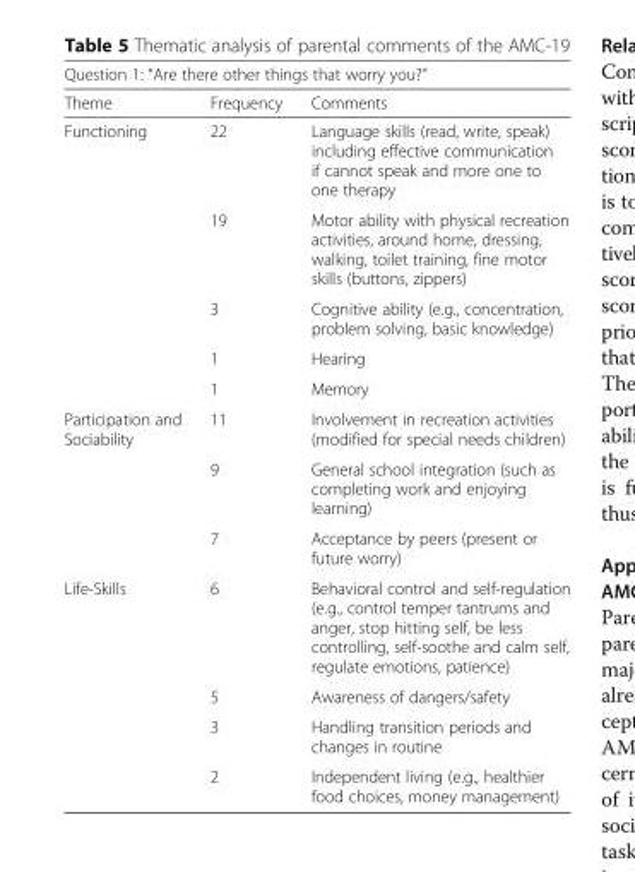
<table><thead><tr><td colspan="3">Question 1: “Are there other things that worry you?”</td></tr><tr><td>Theme</td><td>Frequency</td><td>Comments</td></tr></thead><tbody><tr><td rowspan="5">Functioning</td><td>22</td><td>Language skills (read, write, speak) including effective communication if cannot speak and more one to one therapy</td></tr><tr><td>19</td><td>Motor ability with physical recreation activities, around home, dressing, walking, toilet training, fine motor skills (buttons, zippers)</td></tr><tr><td>3</td><td>Cognitive ability (e.g., concentration, problem solving, basic knowledge)</td></tr><tr><td>1</td><td>Hearing</td></tr><tr><td>1</td><td>Memory</td></tr><tr><td rowspan="3">Participation and Sociability</td><td>11</td><td>Involvement in recreation activities (modified for special needs children)</td></tr><tr><td>9</td><td>General school integration (such as completing work and enjoying learning)</td></tr><tr><td>7</td><td>Acceptance by peers (present or future worry)</td></tr><tr><td rowspan="4">Life-Skills</td><td>6</td><td>Behavioral control and self-regulation (e.g., control temper tantrums and anger, stop hitting self, be less controlling, self-soothe and calm self, regulate emotions, patience)</td></tr><tr><td>5</td><td>Awareness of dangers/safety</td></tr><tr><td>3</td><td>Handling transition periods and changes in routine</td></tr><tr><td>2</td><td>Independent living (e.g., healthier food choices, money management)</td></tr></tbody></table>